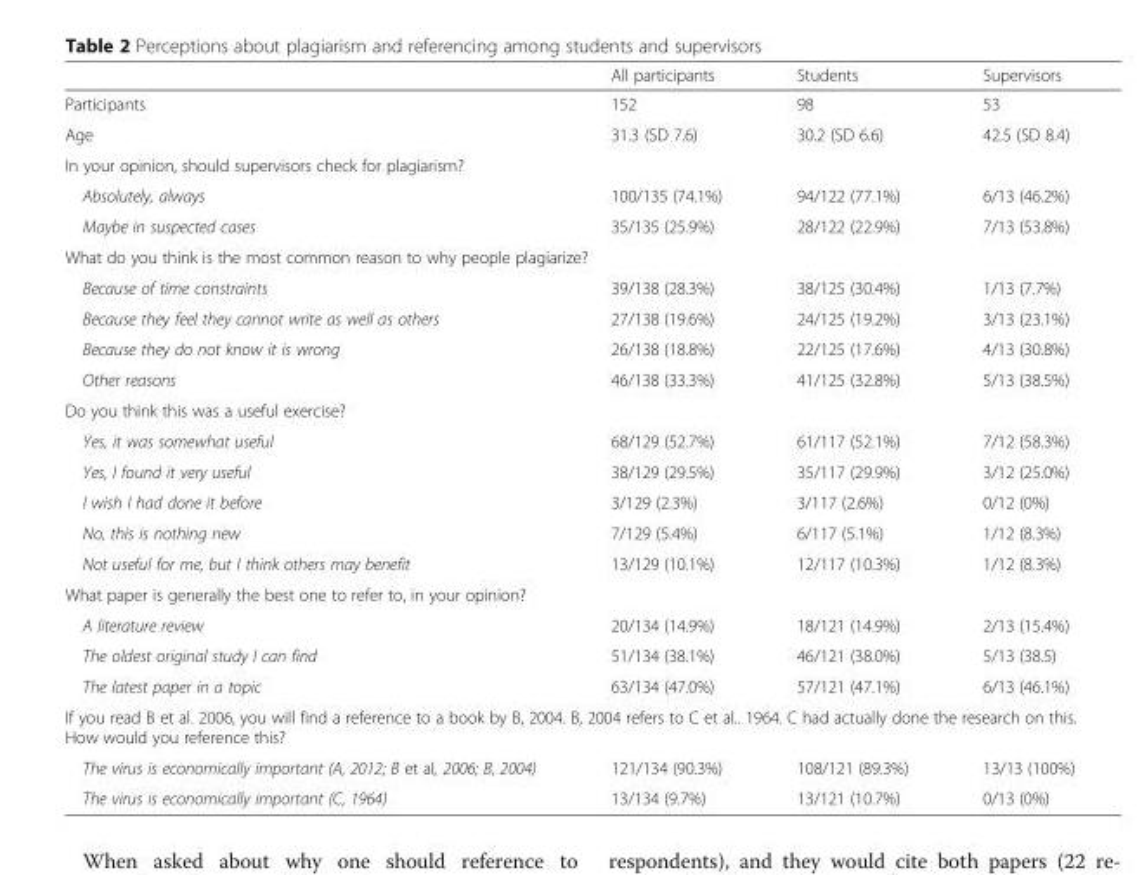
<table><thead><tr><td></td><td>All participants</td><td>Students</td><td>Supervisors</td></tr></thead><tbody><tr><td>Participants</td><td>152</td><td>98</td><td>53</td></tr><tr><td>Age</td><td>31.3 (SD 7.6)</td><td>30.2 (SD 6.6)</td><td>42.5 (SD 8.4)</td></tr><tr><td colspan="4">In your opinion, should supervisors check for plagiarism?</td></tr><tr><td>Absolutely, always</td><td>100/135 (74.1%)</td><td>94/122 (77.1%)</td><td>6/13 (46.2%)</td></tr><tr><td>Maybe in suspected cases</td><td>35/135 (25.9%)</td><td>28/122 (22.9%)</td><td>7/13 (53.8%)</td></tr><tr><td colspan="4">What do you think is the most common reason to why people plagiarize?</td></tr><tr><td>Because of time constraints</td><td>39/138 (28.3%)</td><td>38/125 (30.4%)</td><td>1/13 (7.7%)</td></tr><tr><td>Because they feel they cannot write as well as others</td><td>27/138 (19.6%)</td><td>24/125 (19.2%)</td><td>3/13 (23.1%)</td></tr><tr><td>Because they do not know it is wrong</td><td>26/138 (18.8%)</td><td>22/125 (17.6%)</td><td>4/13 (30.8%)</td></tr><tr><td>Other reasons</td><td>46/138 (33.3%)</td><td>41/125 (32.8%)</td><td>5/13 (38.5%)</td></tr><tr><td colspan="4">Do you think this was a useful exercise?</td></tr><tr><td>Yes, it was somewhat useful</td><td>68/129 (52.7%)</td><td>61/117 (52.1%)</td><td>7/12 (58.3%)</td></tr><tr><td>Yes, I found it very useful</td><td>38/129 (29.5%)</td><td>35/117 (29.9%)</td><td>3/12 (25.0%)</td></tr><tr><td>I wish I had done it before</td><td>3/129 (2.3%)</td><td>3/117 (2.6%)</td><td>0/12 (0%)</td></tr><tr><td>No, this is nothing new</td><td>7/129 (5.4%)</td><td>6/117 (5.1%)</td><td>1/12 (8.3%)</td></tr><tr><td>Not useful for me, but I think others may benefit</td><td>13/129 (10.1%)</td><td>12/117 (10.3%)</td><td>1/12 (8.3%)</td></tr><tr><td colspan="4">What paper is generally the best one to refer to, in your opinion?</td></tr><tr><td>A literature review</td><td>20/134 (14.9%)</td><td>18/121 (14.9%)</td><td>2/13 (15.4%)</td></tr><tr><td>The oldest original study I can find</td><td>51/134 (38.1%)</td><td>46/121 (38.0%)</td><td>5/13 (38.5)</td></tr><tr><td>The latest paper in a topic</td><td>63/134 (47.0%)</td><td>57/121 (47.1%)</td><td>6/13 (46.1%)</td></tr><tr><td colspan="4">If you read B et al. 2006, you will find a reference to a book by B, 2004. B, 2004 refers to C et al.. 1964. C had actually done the research on this. How would you reference this?</td></tr><tr><td>The virus is economically important (A, 2012; B et al, 2006; B, 2004)</td><td>121/134 (90.3%)</td><td>108/121 (89.3%)</td><td>13/13 (100%)</td></tr><tr><td>The virus is economically important (C, 1964)</td><td>13/134 (9.7%)</td><td>13/121 (10.7%)</td><td>0/13 (0%)</td></tr></tbody></table>